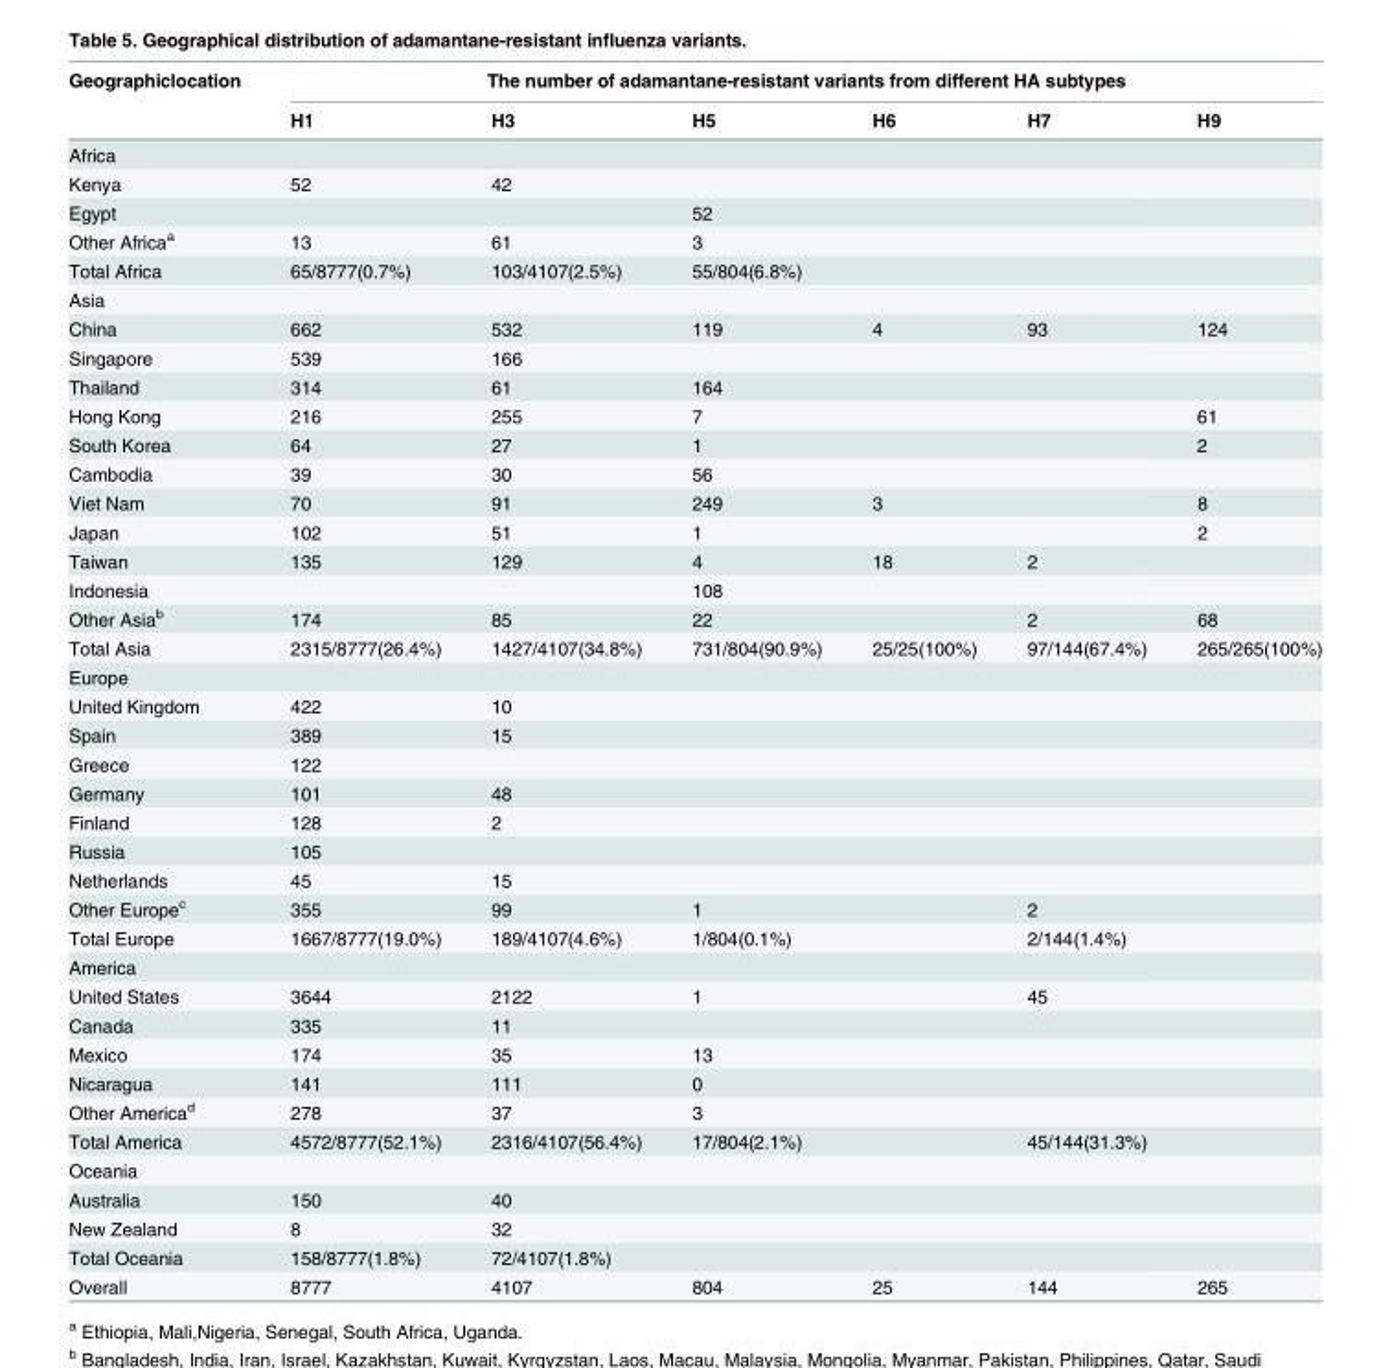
<table><thead><tr><td rowspan="2">Geographiclocation</td><td colspan="6">The number of adamantane-resistant variants from different HA subtypes</td></tr><tr><td>H1</td><td>H3</td><td>H5</td><td>H6</td><td>H7</td><td>H9</td></tr></thead><tbody><tr><td colspan="7">Africa</td></tr><tr><td>Kenya</td><td>52</td><td>42</td><td></td><td></td><td></td><td></td></tr><tr><td>Egypt</td><td></td><td></td><td>52</td><td></td><td></td><td></td></tr><tr><td>Other Africa<sup>a</sup></td><td>13</td><td>61</td><td>3</td><td></td><td></td><td></td></tr><tr><td>Total Africa</td><td>65/8777(0.7%)</td><td>103/4107(2.5%)</td><td>55/804(6.8%)</td><td></td><td></td><td></td></tr><tr><td colspan="7">Asia</td></tr><tr><td>China</td><td>662</td><td>532</td><td>119</td><td>4</td><td>93</td><td>124</td></tr><tr><td>Singapore</td><td>539</td><td>166</td><td></td><td></td><td></td><td></td></tr><tr><td>Thailand</td><td>314</td><td>61</td><td>164</td><td></td><td></td><td></td></tr><tr><td>Hong Kong</td><td>216</td><td>255</td><td>7</td><td></td><td></td><td>61</td></tr><tr><td>South Korea</td><td>64</td><td>27</td><td>1</td><td></td><td></td><td>2</td></tr><tr><td>Cambodia</td><td>39</td><td>30</td><td>56</td><td></td><td></td><td></td></tr><tr><td>Viet Nam</td><td>70</td><td>91</td><td>249</td><td>3</td><td></td><td>8</td></tr><tr><td>Japan</td><td>102</td><td>51</td><td>1</td><td></td><td></td><td>2</td></tr><tr><td>Taiwan</td><td>135</td><td>129</td><td>4</td><td>18</td><td>2</td><td></td></tr><tr><td>Indonesia</td><td></td><td></td><td>108</td><td></td><td></td><td></td></tr><tr><td>Other Asia<sup>b</sup></td><td>174</td><td>85</td><td>22</td><td></td><td>2</td><td>68</td></tr><tr><td>Total Asia</td><td>2315/8777(26.4%)</td><td>1427/4107(34.8%)</td><td>731/804(90.9%)</td><td>25/25(100%)</td><td>97/144(67.4%)</td><td>265/265(100%)</td></tr><tr><td colspan="7">Europe</td></tr><tr><td>United Kingdom</td><td>422</td><td>10</td><td></td><td></td><td></td><td></td></tr><tr><td>Spain</td><td>389</td><td>15</td><td></td><td></td><td></td><td></td></tr><tr><td>Greece</td><td>122</td><td></td><td></td><td></td><td></td><td></td></tr><tr><td>Germany</td><td>101</td><td>48</td><td></td><td></td><td></td><td></td></tr><tr><td>Finland</td><td>128</td><td>2</td><td></td><td></td><td></td><td></td></tr><tr><td>Russia</td><td>105</td><td></td><td></td><td></td><td></td><td></td></tr><tr><td>Netherlands</td><td>45</td><td>15</td><td></td><td></td><td></td><td></td></tr><tr><td>Other Europe<sup>c</sup></td><td>355</td><td>99</td><td>1</td><td></td><td>2</td><td></td></tr><tr><td>Total Europe</td><td>1667/8777(19.0%)</td><td>189/4107(4.6%)</td><td>1/804(0.1%)</td><td></td><td>2/144(1.4%)</td><td></td></tr><tr><td colspan="7">America</td></tr><tr><td>United States</td><td>3644</td><td>2122</td><td>1</td><td></td><td>45</td><td></td></tr><tr><td>Canada</td><td>335</td><td>11</td><td></td><td></td><td></td><td></td></tr><tr><td>Mexico</td><td>174</td><td>35</td><td>13</td><td></td><td></td><td></td></tr><tr><td>Nicaragua</td><td>141</td><td>111</td><td>0</td><td></td><td></td><td></td></tr><tr><td>Other America<sup>d</sup></td><td>278</td><td>37</td><td>3</td><td></td><td></td><td></td></tr><tr><td>Total America</td><td>4572/8777(52.1%)</td><td>2316/4107(56.4%)</td><td>17/804(2.1%)</td><td></td><td>45/144(31.3%)</td><td></td></tr><tr><td colspan="7">Oceania</td></tr><tr><td>Australia</td><td>150</td><td>40</td><td></td><td></td><td></td><td></td></tr><tr><td>New Zealand</td><td>8</td><td>32</td><td></td><td></td><td></td><td></td></tr><tr><td>Total Oceania</td><td>158/8777(1.8%)</td><td>72/4107(1.8%)</td><td></td><td></td><td></td><td></td></tr><tr><td>Overall</td><td>8777</td><td>4107</td><td>804</td><td>25</td><td>144</td><td>265</td></tr></tbody></table>